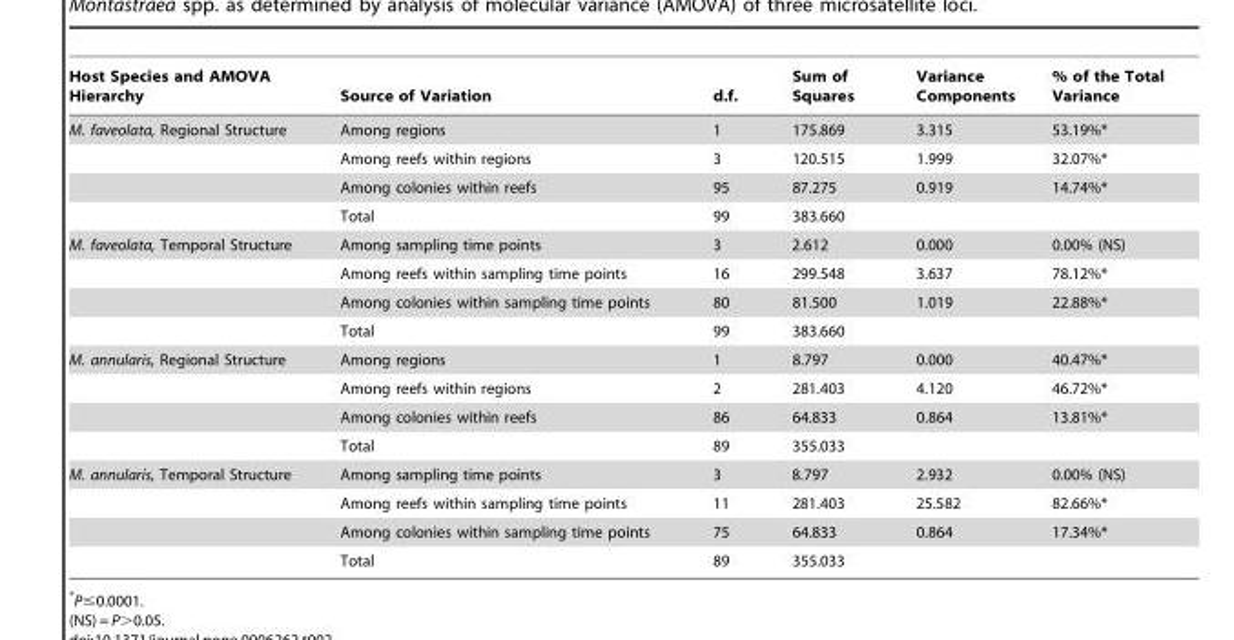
<table><thead><tr><td>Host Species and AMOVA Hierarchy</td><td>Source of Variation</td><td>d.f.</td><td>Sum of Squares</td><td>Variance Components</td><td>% of the Total Variance</td></tr></thead><tbody><tr><td rowspan="4">M. faveolata, Regional Structure</td><td>Among regions</td><td>1</td><td>175.869</td><td>3.315</td><td>53.19%*</td></tr><tr><td>Among reefs within regions</td><td>3</td><td>120.515</td><td>1.999</td><td>32.07%*</td></tr><tr><td>Among colonies within reefs</td><td>95</td><td>87.275</td><td>0.919</td><td>14.74%*</td></tr><tr><td>Total</td><td>99</td><td>383.660</td><td></td><td></td></tr><tr><td rowspan="4">M. faveolata, Temporal Structure</td><td>Among sampling time points</td><td>3</td><td>2.612</td><td>0.000</td><td>0.00% (NS)</td></tr><tr><td>Among reefs within sampling time points</td><td>16</td><td>299.548</td><td>3.637</td><td>78.12%*</td></tr><tr><td>Among colonies within sampling time points</td><td>80</td><td>81.500</td><td>1.019</td><td>22.88%*</td></tr><tr><td>Total</td><td>99</td><td>383.660</td><td></td><td></td></tr><tr><td rowspan="4">M. annularis, Regional Structure</td><td>Among regions</td><td>1</td><td>8.797</td><td>0.000</td><td>40.47%*</td></tr><tr><td>Among reefs within regions</td><td>2</td><td>281.403</td><td>4.120</td><td>46.72%*</td></tr><tr><td>Among colonies within reefs</td><td>86</td><td>64.833</td><td>0.864</td><td>13.81%*</td></tr><tr><td>Total</td><td>89</td><td>355.033</td><td></td><td></td></tr><tr><td rowspan="4">M. annularis, Temporal Structure</td><td>Among sampling time points</td><td>3</td><td>8.797</td><td>2.932</td><td>0.00% (NS)</td></tr><tr><td>Among reefs within sampling time points</td><td>11</td><td>281.403</td><td>25.582</td><td>82.66%*</td></tr><tr><td>Among colonies within sampling time points</td><td>75</td><td>64.833</td><td>0.864</td><td>17.34%*</td></tr><tr><td>Total</td><td>89</td><td>355.033</td><td></td><td></td></tr></tbody></table>